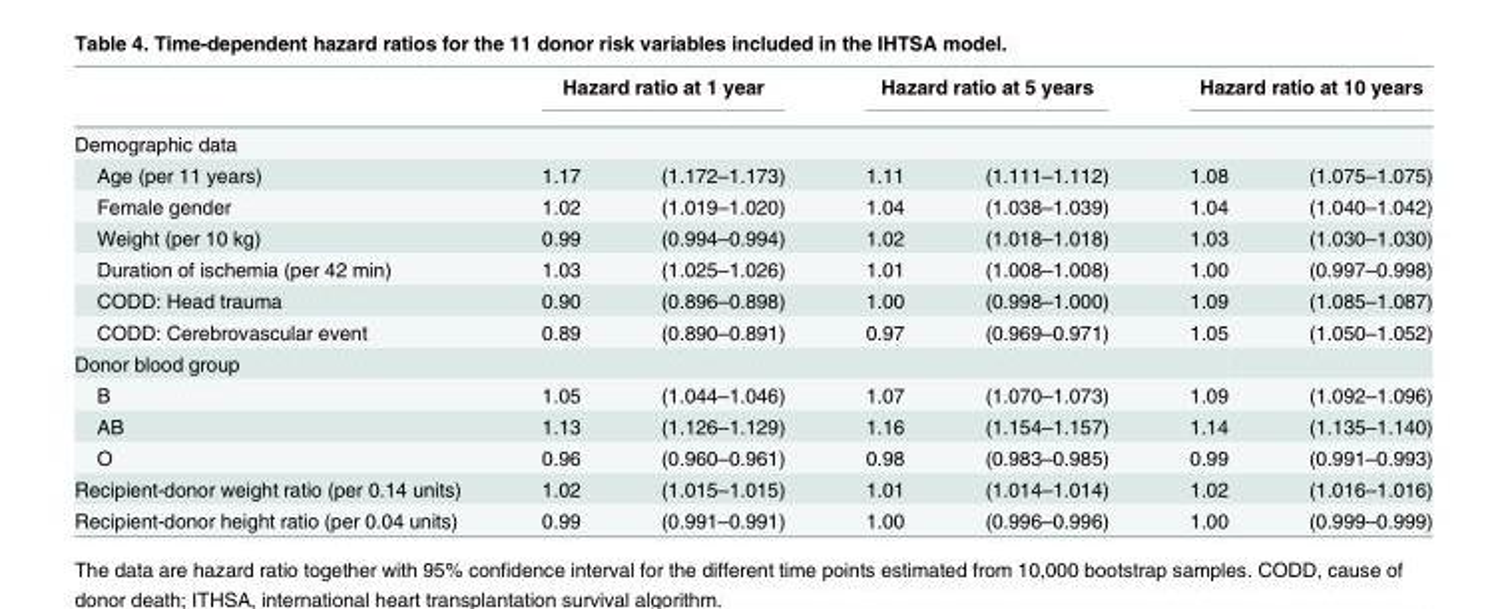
<table><thead><tr><td rowspan="2">Demographic data</td><td colspan="2">Hazard ratio at 1 year</td><td colspan="2">Hazard ratio at 5 years</td><td colspan="2">Hazard ratio at 10 years</td></tr><tr><td></td><td></td><td></td><td></td><td></td><td></td></tr></thead><tbody><tr><td>Age (per 11 years)</td><td>1.17</td><td>(1.172–1.173)</td><td>1.11</td><td>(1.111–1.112)</td><td>1.08</td><td>(1.075–1.075)</td></tr><tr><td>Female gender</td><td>1.02</td><td>(1.019–1.020)</td><td>1.04</td><td>(1.038–1.039)</td><td>1.04</td><td>(1.040–1.042)</td></tr><tr><td>Weight (per 10 kg)</td><td>0.99</td><td>(0.994–0.994)</td><td>1.02</td><td>(1.018–1.018)</td><td>1.03</td><td>(1.030–1.030)</td></tr><tr><td>Duration of ischemia (per 42 min)</td><td>1.03</td><td>(1.025–1.026)</td><td>1.01</td><td>(1.008–1.008)</td><td>1.00</td><td>(0.997–0.998)</td></tr><tr><td>CODD: Head trauma</td><td>0.90</td><td>(0.896–0.898)</td><td>1.00</td><td>(0.998–1.000)</td><td>1.09</td><td>(1.085–1.087)</td></tr><tr><td>CODD: Cerebrovascular event</td><td>0.89</td><td>(0.890–0.891)</td><td>0.97</td><td>(0.969–0.971)</td><td>1.05</td><td>(1.050–1.052)</td></tr><tr><td colspan="7">Donor blood group</td></tr><tr><td>B</td><td>1.05</td><td>(1.044–1.046)</td><td>1.07</td><td>(1.070–1.073)</td><td>1.09</td><td>(1.092–1.096)</td></tr><tr><td>AB</td><td>1.13</td><td>(1.126–1.129)</td><td>1.16</td><td>(1.154–1.157)</td><td>1.14</td><td>(1.135–1.140)</td></tr><tr><td>O</td><td>0.96</td><td>(0.960–0.961)</td><td>0.98</td><td>(0.983–0.985)</td><td>0.99</td><td>(0.991–0.993)</td></tr><tr><td>Recipient-donor weight ratio (per 0.14 units)</td><td>1.02</td><td>(1.015–1.015)</td><td>1.01</td><td>(1.014–1.014)</td><td>1.02</td><td>(1.016–1.016)</td></tr><tr><td>Recipient-donor height ratio (per 0.04 units)</td><td>0.99</td><td>(0.991–0.991)</td><td>1.00</td><td>(0.996–0.996)</td><td>1.00</td><td>(0.999–0.999)</td></tr></tbody></table>